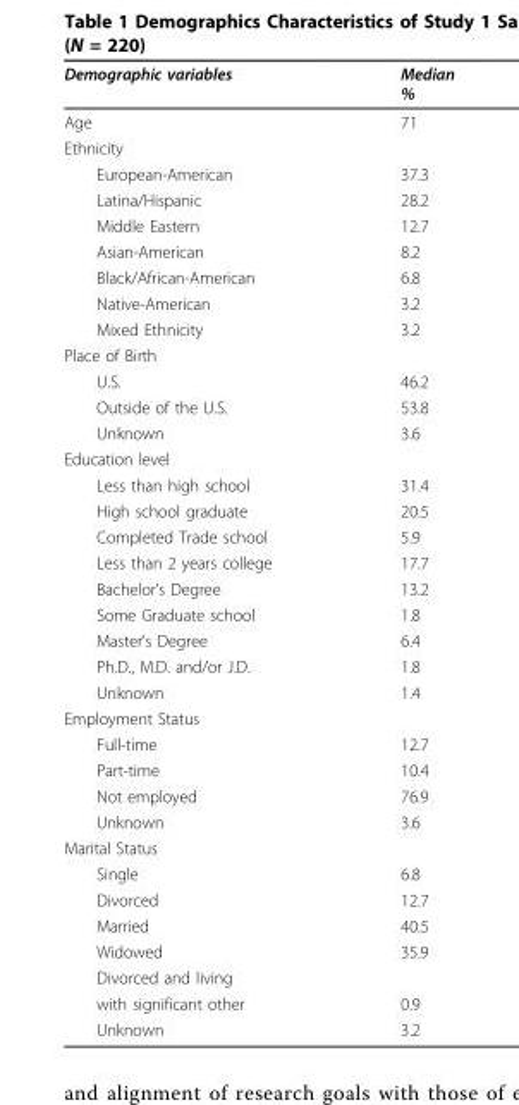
<table><thead><tr><td>Demographic variables</td><td>Median %</td></tr></thead><tbody><tr><td>Age</td><td>71</td></tr><tr><td colspan="2">Ethnicity</td></tr><tr><td>European-American</td><td>37.3</td></tr><tr><td>Latina/Hispanic</td><td>28.2</td></tr><tr><td>Middle Eastern</td><td>12.7</td></tr><tr><td>Asian-American</td><td>8.2</td></tr><tr><td>Black/African-American</td><td>6.8</td></tr><tr><td>Native-American</td><td>3.2</td></tr><tr><td>Mixed Ethnicity</td><td>3.2</td></tr><tr><td colspan="2">Place of Birth</td></tr><tr><td>U.S.</td><td>46.2</td></tr><tr><td>Outside of the U.S.</td><td>53.8</td></tr><tr><td>Unknown</td><td>3.6</td></tr><tr><td colspan="2">Education level</td></tr><tr><td>Less than high school</td><td>31.4</td></tr><tr><td>High school graduate</td><td>20.5</td></tr><tr><td>Completed Trade school</td><td>5.9</td></tr><tr><td>Less than 2 years college</td><td>17.7</td></tr><tr><td>Bachelor’s Degree</td><td>13.2</td></tr><tr><td>Some Graduate school</td><td>1.8</td></tr><tr><td>Master’s Degree</td><td>6.4</td></tr><tr><td>Ph.D., M.D. and/or J.D.</td><td>1.8</td></tr><tr><td>Unknown</td><td>1.4</td></tr><tr><td colspan="2">Employment Status</td></tr><tr><td>Full-time</td><td>12.7</td></tr><tr><td>Part-time</td><td>10.4</td></tr><tr><td>Not employed</td><td>76.9</td></tr><tr><td>Unknown</td><td>3.6</td></tr><tr><td colspan="2">Marital Status</td></tr><tr><td>Single</td><td>6.8</td></tr><tr><td>Divorced</td><td>12.7</td></tr><tr><td>Married</td><td>40.5</td></tr><tr><td>Widowed</td><td>35.9</td></tr><tr><td colspan="2">Divorced and living</td></tr><tr><td>with significant other</td><td>0.9</td></tr><tr><td>Unknown</td><td>3.2</td></tr></tbody></table>